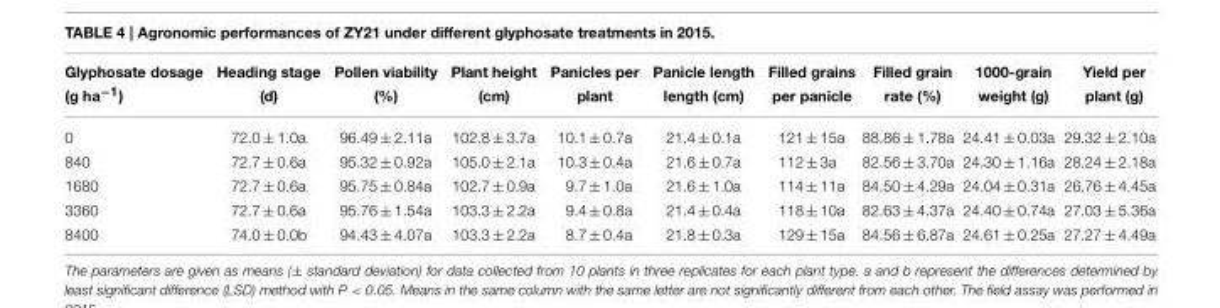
<table><thead><tr><td>Glyphosate dosage (g ha<sup>−1</sup>)</td><td>Heading stage (d)</td><td>Pollen viability (%)</td><td>Plant height (cm)</td><td>Panicles per plant</td><td>Panicle length length (cm)</td><td>Filled grains per panicle</td><td>Filled grain rate (%)</td><td>1000-grain weight (g)</td><td>Yield per plant (g)</td></tr></thead><tbody><tr><td>0</td><td>72.0 ± 1.0a</td><td>96.49 ± 2.11a</td><td>102.8 ± 3.7a</td><td>10.1 ± 0.7a</td><td>21.4 ± 0.1a</td><td>121 ± 15a</td><td>88.86 ± 1.78a</td><td>24.41 ± 0.03a</td><td>29.32 ± 2.10a</td></tr><tr><td>840</td><td>72.7 ± 0.6a</td><td>95.32 ± 0.92a</td><td>105.0 ± 2.1a</td><td>10.3 ± 0.4a</td><td>21.6 ± 0.7a</td><td>112 ± 3a</td><td>82.56 ± 3.70a</td><td>24.30 ± 1.16a</td><td>28.24 ± 2.18a</td></tr><tr><td>1680</td><td>72.7 ± 0.6a</td><td>95.75 ± 0.84a</td><td>102.7 ± 0.9a</td><td>9.7 ± 1.0a</td><td>21.6 ± 1.0a</td><td>114 ± 11a</td><td>84.50 ± 4.29a</td><td>24.04 ± 0.31a</td><td>26.76 ± 4.45a</td></tr><tr><td>3360</td><td>72.7 ± 0.6a</td><td>95.76 ± 1.54a</td><td>103.3 ± 2.2a</td><td>9.4 ± 0.8a</td><td>21.4 ± 0.4a</td><td>118 ± 10a</td><td>82.63 ± 4.37a</td><td>24.40 ± 0.74a</td><td>27.03 ± 5.36a</td></tr><tr><td>8400</td><td>74.0 ± 0.0b</td><td>94.43 ± 4.07a</td><td>103.3 ± 2.2a</td><td>8.7 ± 0.4a</td><td>21.8 ± 0.3a</td><td>129 ± 15a</td><td>84.56 ± 6.87a</td><td>24.61 ± 0.25a</td><td>27.27 ± 4.49a</td></tr></tbody></table>